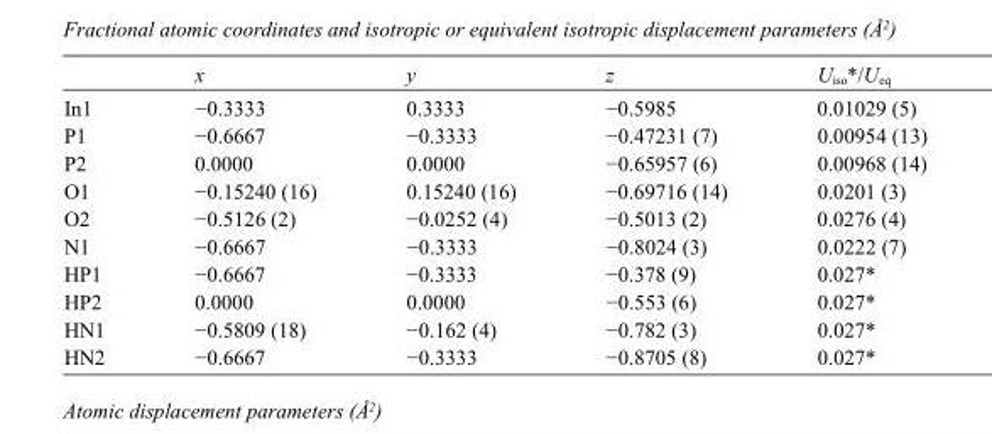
<table><thead><tr><td></td><td>x</td><td>y</td><td>z</td><td>U<sub>iso</sub>*/U<sub>eq</sub></td></tr></thead><tbody><tr><td>In1</td><td>−0.3333</td><td>0.3333</td><td>−0.5985</td><td>0.01029 (5)</td></tr><tr><td>P1</td><td>−0.6667</td><td>−0.3333</td><td>−0.47231 (7)</td><td>0.00954 (13)</td></tr><tr><td>P2</td><td>0.0000</td><td>0.0000</td><td>−0.65957 (6)</td><td>0.00968 (14)</td></tr><tr><td>O1</td><td>−0.15240 (16)</td><td>0.15240 (16)</td><td>−0.69716 (14)</td><td>0.0201 (3)</td></tr><tr><td>O2</td><td>−0.5126 (2)</td><td>−0.0252 (4)</td><td>−0.5013 (2)</td><td>0.0276 (4)</td></tr><tr><td>N1</td><td>−0.6667</td><td>−0.3333</td><td>−0.8024 (3)</td><td>0.0222 (7)</td></tr><tr><td>HP1</td><td>−0.6667</td><td>−0.3333</td><td>−0.378 (9)</td><td>0.027*</td></tr><tr><td>HP2</td><td>0.0000</td><td>0.0000</td><td>−0.553 (6)</td><td>0.027*</td></tr><tr><td>HN1</td><td>−0.5809 (18)</td><td>−0.162 (4)</td><td>−0.782 (3)</td><td>0.027*</td></tr><tr><td>HN2</td><td>−0.6667</td><td>−0.3333</td><td>−0.8705 (8)</td><td>0.027*</td></tr></tbody></table>